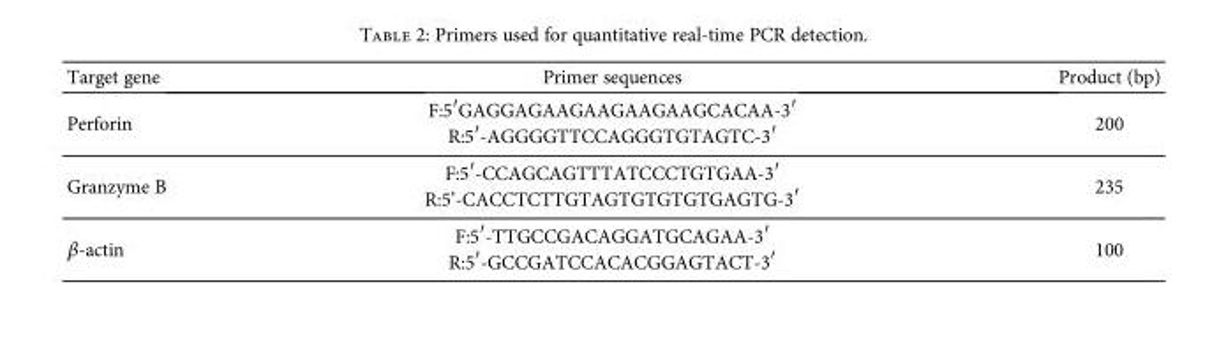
<table><thead><tr><td>Target gene</td><td>Primer sequences</td><td>Product (bp)</td></tr></thead><tbody><tr><td>Perforin</td><td>F:5′GAGGAGAAGAAGAAGAAGCACAA-3′ R:5′-AGGGGTTCCAGGGTGTAGTC-3′</td><td>200</td></tr><tr><td>Granzyme B</td><td>F:5′-CCAGCAGTTTATCCCTGTGAA-3′ R:5’-CACCTCTTGTAGTGTGTGTGAGTG-3′</td><td>235</td></tr><tr><td>β-actin</td><td>F:5′-TTGCCGACAGGATGCAGAA-3′ R:5′-GCCGATCCACACGGAGTACT-3′</td><td>100</td></tr></tbody></table>